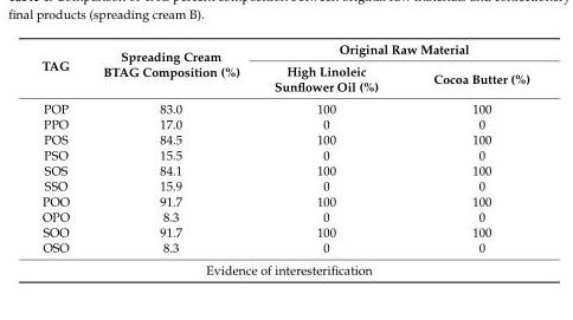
<table><thead><tr><td rowspan="2">TAG</td><td rowspan="2">Spreading Cream BTAG Composition (%)</td><td colspan="2">Original Raw Material</td></tr><tr><td>High Linoleic Sunflower Oil (%)</td><td>Cocoa Butter (%)</td></tr></thead><tbody><tr><td>POP</td><td>83.0</td><td>100</td><td>100</td></tr><tr><td>PPO</td><td>17.0</td><td>0</td><td>0</td></tr><tr><td>POS</td><td>84.5</td><td>100</td><td>100</td></tr><tr><td>PSO</td><td>15.5</td><td>0</td><td>0</td></tr><tr><td>SOS</td><td>84.1</td><td>100</td><td>100</td></tr><tr><td>SSO</td><td>15.9</td><td>0</td><td>0</td></tr><tr><td>POO</td><td>91.7</td><td>100</td><td>100</td></tr><tr><td>OPO</td><td>8.3</td><td>0</td><td>0</td></tr><tr><td>SOO</td><td>91.7</td><td>100</td><td>100</td></tr><tr><td>OSO</td><td>8.3</td><td>0</td><td>0</td></tr><tr><td colspan="4">Evidence of interesterification</td></tr></tbody></table>